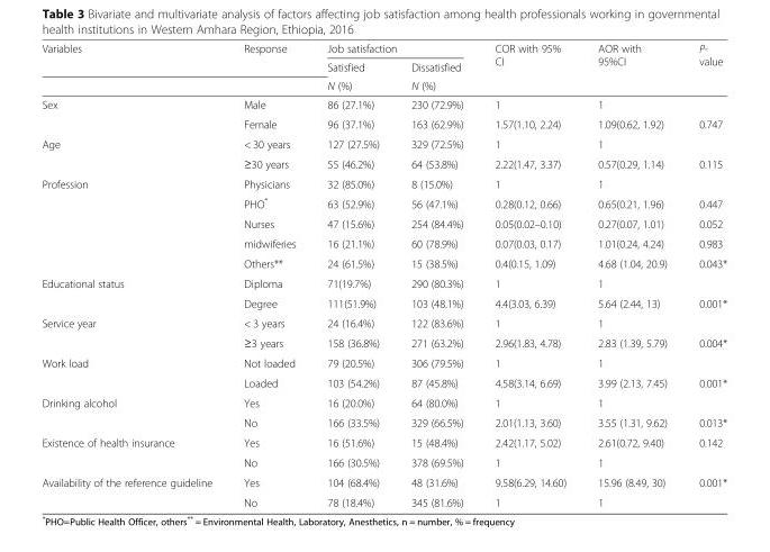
<table><thead><tr><td rowspan="3">Variables</td><td rowspan="3">Response</td><td colspan="2">Job satisfaction</td><td rowspan="3">COR with 95% CI</td><td rowspan="3">AOR with 95%CI</td><td rowspan="3">P- value</td></tr><tr><td rowspan="2">Satisfied N (%)</td><td rowspan="2">Dissatisfied N (%)</td></tr><tr></tr></thead><tbody><tr><td rowspan="2">Sex</td><td>Male</td><td>86 (27.1%)</td><td>230 (72.9%)</td><td>1</td><td>1</td><td></td></tr><tr><td>Female</td><td>96 (37.1%)</td><td>163 (62.9%)</td><td>1.57(1.10, 2.24)</td><td>1.09(0.62, 1.92)</td><td>0.747</td></tr><tr><td rowspan="2">Age</td><td>&lt; 30 years</td><td>127 (27.5%)</td><td>329 (72.5%)</td><td>1</td><td>1</td><td></td></tr><tr><td>≥30 years</td><td>55 (46.2%)</td><td>64 (53.8%)</td><td>2.22(1.47, 3.37)</td><td>0.57(0.29, 1.14)</td><td>0.115</td></tr><tr><td rowspan="5">Profession</td><td>Physicians</td><td>32 (85.0%)</td><td>8 (15.0%)</td><td>1</td><td>1</td><td></td></tr><tr><td>PHO*</td><td>63 (52.9%)</td><td>56 (47.1%)</td><td>0.28(0.12, 0.66)</td><td>0.65(0.21, 1.96)</td><td>0.447</td></tr><tr><td>Nurses</td><td>47 (15.6%)</td><td>254 (84.4%)</td><td>0.05(0.02–0.10)</td><td>0.27(0.07, 1.01)</td><td>0.052</td></tr><tr><td>midwiferies</td><td>16 (21.1%)</td><td>60 (78.9%)</td><td>0.07(0.03, 0.17)</td><td>1.01(0.24, 4.24)</td><td>0.983</td></tr><tr><td>Others**</td><td>24 (61.5%)</td><td>15 (38.5%)</td><td>0.4(0.15, 1.09)</td><td>4.68 (1.04, 20.9)</td><td>0.043*</td></tr><tr><td rowspan="2">Educational status</td><td>Diploma</td><td>71(19.7%)</td><td>290 (80.3%)</td><td>1</td><td>1</td><td></td></tr><tr><td>Degree</td><td>111(51.9%)</td><td>103 (48.1%)</td><td>4.4(3.03, 6.39)</td><td>5.64 (2.44, 13)</td><td>0.001*</td></tr><tr><td rowspan="2">Service year</td><td>&lt; 3 years</td><td>24 (16.4%)</td><td>122 (83.6%)</td><td>1</td><td>1</td><td></td></tr><tr><td>≥3 years</td><td>158 (36.8%)</td><td>271 (63.2%)</td><td>2.96(1.83, 4.78)</td><td>2.83 (1.39, 5.79)</td><td>0.004*</td></tr><tr><td rowspan="2">Work load</td><td>Not loaded</td><td>79 (20.5%)</td><td>306 (79.5%)</td><td>1</td><td>1</td><td></td></tr><tr><td>Loaded</td><td>103 (54.2%)</td><td>87 (45.8%)</td><td>4.58(3.14, 6.69)</td><td>3.99 (2.13, 7.45)</td><td>0.001*</td></tr><tr><td rowspan="2">Drinking alcohol</td><td>Yes</td><td>16 (20.0%)</td><td>64 (80.0%)</td><td>1</td><td>1</td><td></td></tr><tr><td>No</td><td>166 (33.5%)</td><td>329 (66.5%)</td><td>2.01(1.13, 3.60)</td><td>3.55 (1.31, 9.62)</td><td>0.013*</td></tr><tr><td rowspan="2">Existence of health insurance</td><td>Yes</td><td>16 (51.6%)</td><td>15 (48.4%)</td><td>2.42(1.17, 5.02)</td><td>2.61(0.72, 9.40)</td><td>0.142</td></tr><tr><td>No</td><td>166 (30.5%)</td><td>378 (69.5%)</td><td>1</td><td>1</td><td></td></tr><tr><td rowspan="2">Availability of the reference guideline</td><td>Yes</td><td>104 (68.4%)</td><td>48 (31.6%)</td><td>9.58(6.29, 14.60)</td><td>15.96 (8.49, 30)</td><td>0.001*</td></tr><tr><td>No</td><td>78 (18.4%)</td><td>345 (81.6%)</td><td>1</td><td>1</td><td></td></tr></tbody></table>